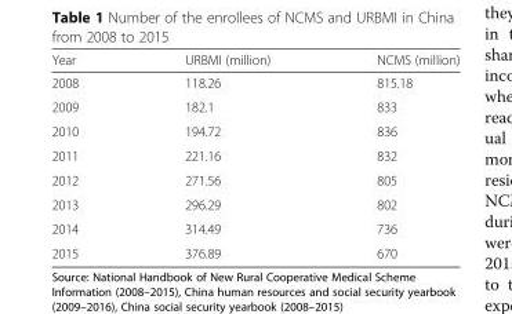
<table><thead><tr><td>Year</td><td>URBMI (million)</td><td>NCMS (million)</td></tr></thead><tbody><tr><td>2008</td><td>118.26</td><td>815.18</td></tr><tr><td>2009</td><td>182.1</td><td>833</td></tr><tr><td>2010</td><td>194.72</td><td>836</td></tr><tr><td>2011</td><td>221.16</td><td>832</td></tr><tr><td>2012</td><td>271.56</td><td>805</td></tr><tr><td>2013</td><td>296.29</td><td>802</td></tr><tr><td>2014</td><td>314.49</td><td>736</td></tr><tr><td>2015</td><td>376.89</td><td>670</td></tr></tbody></table>